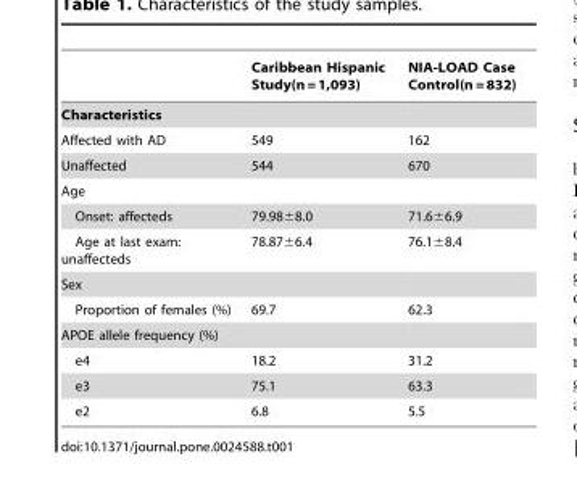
<table><thead><tr><td></td><td>Caribbean Hispanic Study(n = 1,093)</td><td>NIA-LOAD Case Control(n = 832)</td></tr></thead><tbody><tr><td colspan="3">Characteristics</td></tr><tr><td>Affected with AD</td><td>549</td><td>162</td></tr><tr><td>Unaffected</td><td>544</td><td>670</td></tr><tr><td colspan="3">Age</td></tr><tr><td>Onset: affecteds</td><td>79.98±8.0</td><td>71.6±6.9</td></tr><tr><td>Age at last exam: unaffecteds</td><td>78.87±6.4</td><td>76.1±8.4</td></tr><tr><td colspan="3">Sex</td></tr><tr><td>Proportion of females (%)</td><td>69.7</td><td>62.3</td></tr><tr><td colspan="3">APOE allele frequency (%)</td></tr><tr><td>e4</td><td>18.2</td><td>31.2</td></tr><tr><td>e3</td><td>75.1</td><td>63.3</td></tr><tr><td>e2</td><td>6.8</td><td>5.5</td></tr></tbody></table>